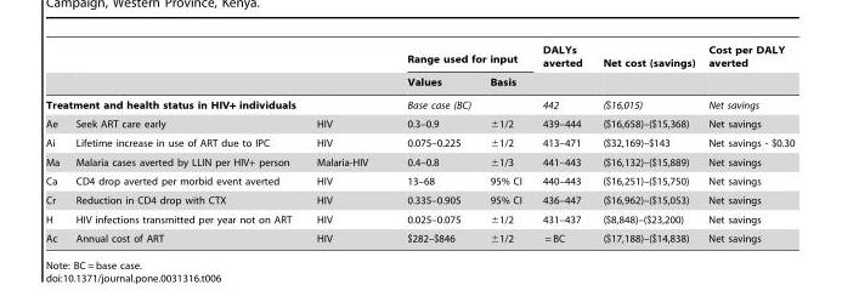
<table><thead><tr><td rowspan="2"></td><td rowspan="2"></td><td rowspan="2"></td><td colspan="2">Range used for input</td><td rowspan="2">DALYs averted</td><td rowspan="2">Net cost (savings)</td><td rowspan="2">Cost per DALY averted</td></tr><tr><td>Values</td><td>Basis</td></tr></thead><tbody><tr><td colspan="2">Treatment and health status in HIV+ individuals</td><td></td><td>Base case (BC)</td><td></td><td>442</td><td>($16,015)</td><td>Net savings</td></tr><tr><td>Ae</td><td>Seek ART care early</td><td>HIV</td><td>0.3–0.9</td><td>±1/2</td><td>439–444</td><td>($16,658)–($15,368)</td><td>Net savings</td></tr><tr><td>Ai</td><td>Lifetime increase in use of ART due to IPC</td><td>HIV</td><td>0.075–0.225</td><td>±1/2</td><td>413–471</td><td>($32,169)–$143</td><td>Net savings - $0.30</td></tr><tr><td>Ma</td><td>Malaria cases averted by LLIN per HIV+ person</td><td>Malaria-HIV</td><td>0.4–0.8</td><td>±1/3</td><td>441–443</td><td>($16,132)–($15,889)</td><td>Net savings</td></tr><tr><td>Ca</td><td>CD4 drop averted per morbid event averted</td><td>HIV</td><td>13–68</td><td>95% CI</td><td>440–443</td><td>($16,251)–($15,750)</td><td>Net savings</td></tr><tr><td>Cr</td><td>Reduction in CD4 drop with CTX</td><td>HIV</td><td>0.335–0.905</td><td>95% CI</td><td>436–447</td><td>($16,962)–($15,053)</td><td>Net savings</td></tr><tr><td>H</td><td>HIV infections transmitted per year not on ART</td><td>HIV</td><td>0.025–0.075</td><td>±1/2</td><td>431–437</td><td>($8,848)–($23,200)</td><td>Net savings</td></tr><tr><td>Ac</td><td>Annual cost of ART</td><td>HIV</td><td>$282–$846</td><td>±1/2</td><td>= BC</td><td>($17,188)–($14,838)</td><td>Net savings</td></tr></tbody></table>